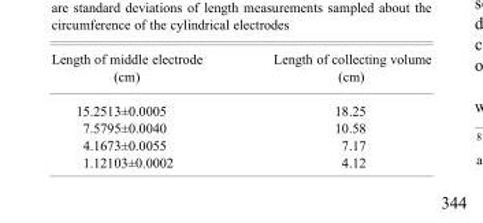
<table><thead><tr><td>Length of middle electrode (cm)</td><td>Length of collecting volume (cm)</td></tr></thead><tbody><tr><td>15.2513±0.0005</td><td>18.25</td></tr><tr><td>7.5795±0.0040</td><td>10.58</td></tr><tr><td>4.1673±0.0055</td><td>7.17</td></tr><tr><td>1.12103±0.0002</td><td>4.12</td></tr></tbody></table>